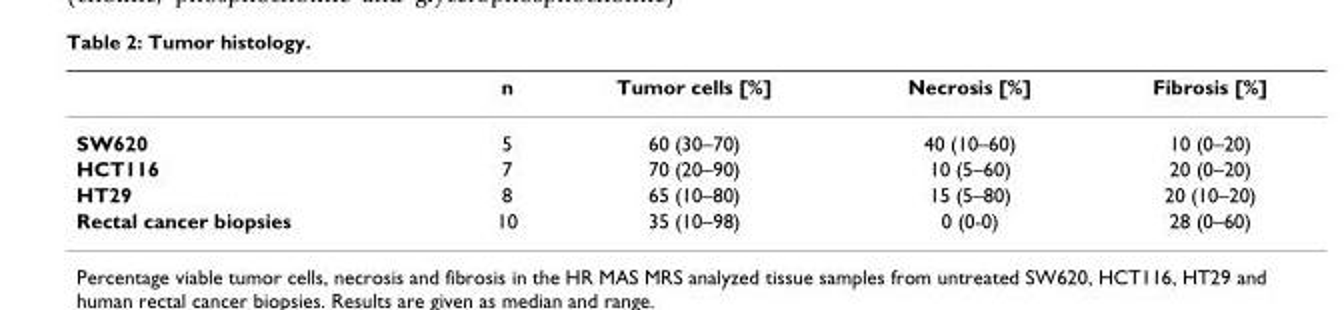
<table><thead><tr><td></td><td>n</td><td>Tumor cells [%]</td><td>Necrosis [%]</td><td>Fibrosis [%]</td></tr></thead><tbody><tr><td>SW620</td><td>5</td><td>60 (30–70)</td><td>40 (10–60)</td><td>10 (0–20)</td></tr><tr><td>HCT116</td><td>7</td><td>70 (20–90)</td><td>10 (5–60)</td><td>20 (0–20)</td></tr><tr><td>HT29</td><td>8</td><td>65 (10–80)</td><td>15 (5–80)</td><td>20 (10–20)</td></tr><tr><td>Rectal cancer biopsies</td><td>10</td><td>35 (10–98)</td><td>0 (0-0)</td><td>28 (0–60)</td></tr></tbody></table>